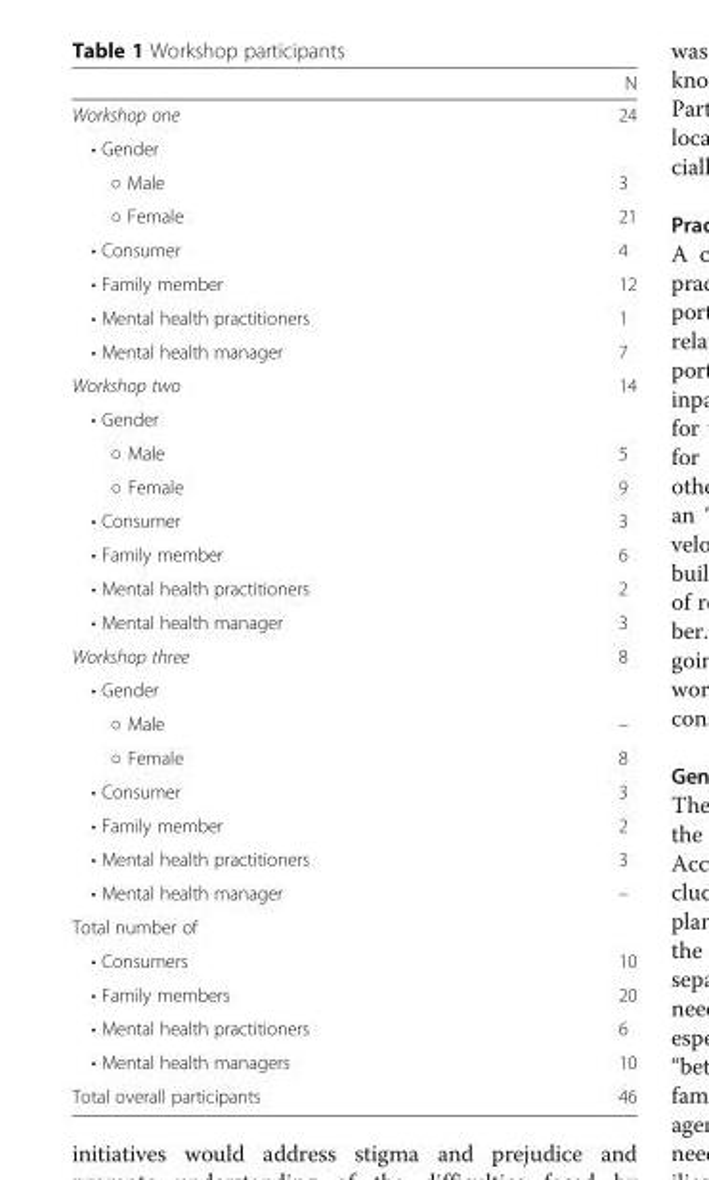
<table><thead><tr><td colspan="2">N</td></tr><tr><td>Workshop one</td><td>24</td></tr></thead><tbody><tr><td colspan="2">• Gender</td></tr><tr><td>○ Male</td><td>3</td></tr><tr><td>○ Female</td><td>21</td></tr><tr><td>• Consumer</td><td>4</td></tr><tr><td>• Family member</td><td>12</td></tr><tr><td>• Mental health practitioners</td><td>1</td></tr><tr><td>• Mental health manager</td><td>7</td></tr><tr><td>Workshop two</td><td>14</td></tr><tr><td colspan="2">• Gender</td></tr><tr><td>○ Male</td><td>5</td></tr><tr><td>○ Female</td><td>9</td></tr><tr><td>• Consumer</td><td>3</td></tr><tr><td>• Family member</td><td>6</td></tr><tr><td>• Mental health practitioners</td><td>2</td></tr><tr><td>• Mental health manager</td><td>3</td></tr><tr><td>Workshop three</td><td>8</td></tr><tr><td colspan="2">• Gender</td></tr><tr><td>○ Male</td><td>–</td></tr><tr><td>○ Female</td><td>8</td></tr><tr><td>• Consumer</td><td>3</td></tr><tr><td>• Family member</td><td>2</td></tr><tr><td>• Mental health practitioners</td><td>3</td></tr><tr><td>• Mental health manager</td><td>–</td></tr><tr><td colspan="2">Total number of</td></tr><tr><td>• Consumers</td><td>10</td></tr><tr><td>• Family members</td><td>20</td></tr><tr><td>• Mental health practitioners</td><td>6</td></tr><tr><td>• Mental health managers</td><td>10</td></tr><tr><td>Total overall participants</td><td>46</td></tr></tbody></table>